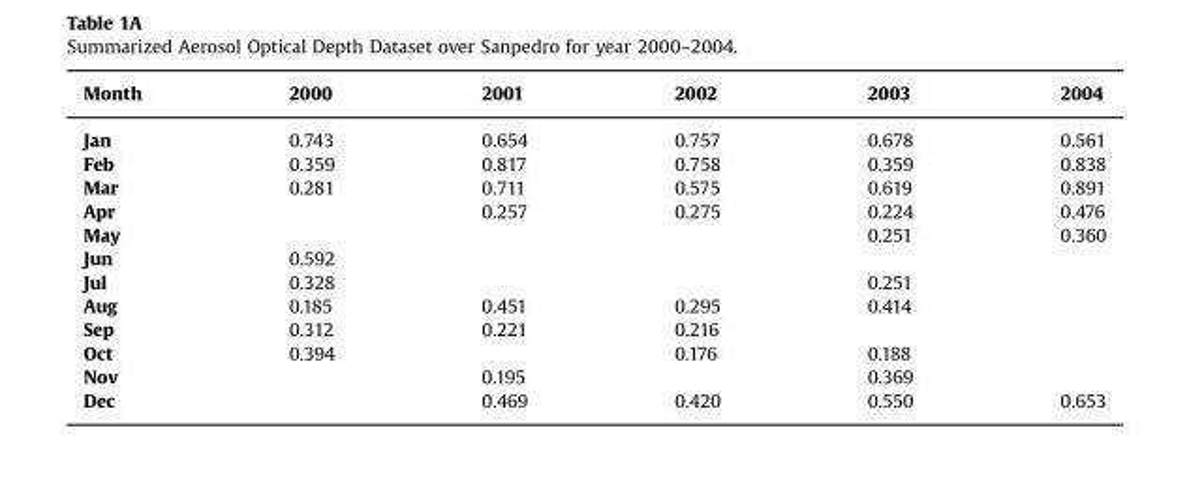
<table><thead><tr><td>Month</td><td>2000</td><td>2001</td><td>2002</td><td>2003</td><td>2004</td></tr></thead><tbody><tr><td>Jan</td><td>0.743</td><td>0.654</td><td>0.757</td><td>0.678</td><td>0.561</td></tr><tr><td>Feb</td><td>0.359</td><td>0.817</td><td>0.758</td><td>0.359</td><td>0.838</td></tr><tr><td>Mar</td><td>0.281</td><td>0.711</td><td>0.575</td><td>0.619</td><td>0.891</td></tr><tr><td>Apr</td><td></td><td>0.257</td><td>0.275</td><td>0.224</td><td>0.476</td></tr><tr><td>May</td><td></td><td></td><td></td><td>0.251</td><td>0.360</td></tr><tr><td>Jun</td><td>0.592</td><td></td><td></td><td></td><td></td></tr><tr><td>Jul</td><td>0.328</td><td></td><td></td><td>0.251</td><td></td></tr><tr><td>Aug</td><td>0.185</td><td>0.451</td><td>0.295</td><td>0.414</td><td></td></tr><tr><td>Sep</td><td>0.312</td><td>0.221</td><td>0.216</td><td></td><td></td></tr><tr><td>Oct</td><td>0.394</td><td></td><td>0.176</td><td>0.188</td><td></td></tr><tr><td>Nov</td><td></td><td>0.195</td><td></td><td>0.369</td><td></td></tr><tr><td>Dec</td><td></td><td>0.469</td><td>0.420</td><td>0.550</td><td>0.653</td></tr></tbody></table>